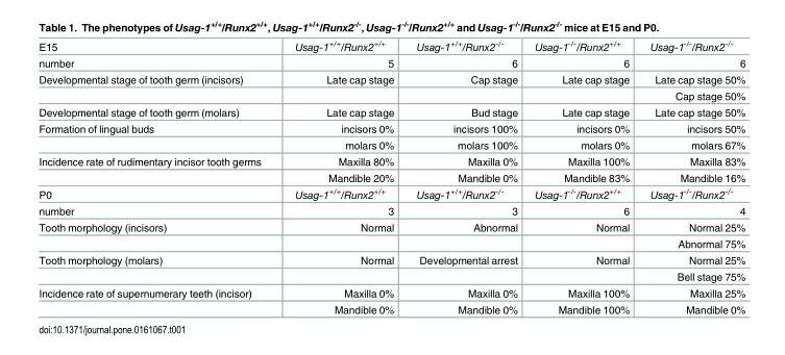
<table><tbody><tr><td>E15</td><td>Usag-1<sup>+/+</sup>/Runx2<sup>+/+</sup></td><td>Usag-1<sup>+/+</sup>/Runx2<sup>-/-</sup></td><td>Usag-1<sup>-/-</sup>/Runx2<sup>+/+</sup></td><td>Usag-1<sup>-/-</sup>/Runx2<sup>-/-</sup></td></tr><tr><td>number</td><td>5</td><td>6</td><td>6</td><td>6</td></tr><tr><td rowspan="2">Developmental stage of tooth germ (incisors)</td><td>Late cap stage</td><td>Cap stage</td><td>Late cap stage</td><td>Late cap stage 50%</td></tr><tr><td></td><td></td><td></td><td>Cap stage 50%</td></tr><tr><td>Developmental stage of tooth germ (molars)</td><td>Late cap stage</td><td>Bud stage</td><td>Late cap stage</td><td>Late cap stage 50%</td></tr><tr><td rowspan="2">Formation of lingual buds</td><td>incisors 0%</td><td>incisors 100%</td><td>incisors 0%</td><td>incisors 50%</td></tr><tr><td>molars 0%</td><td>molars 100%</td><td>molars 0%</td><td>molars 67%</td></tr><tr><td rowspan="2">Incidence rate of rudimentary incisor tooth germs</td><td>Maxilla 80%</td><td>Maxilla 0%</td><td>Maxilla 100%</td><td>Maxilla 83%</td></tr><tr><td>Mandible 20%</td><td>Mandible 0%</td><td>Mandible 83%</td><td>Mandible 16%</td></tr><tr><td>P0</td><td>Usag-1<sup>+/+</sup>/Runx2<sup>+/+</sup></td><td>Usag-1<sup>+/+</sup>/Runx2<sup>-/-</sup></td><td>Usag-1<sup>-/-</sup>/Runx2<sup>+/+</sup></td><td>Usag-1<sup>-/-</sup>/Runx2<sup>-/-</sup></td></tr><tr><td>number</td><td>3</td><td>3</td><td>6</td><td>4</td></tr><tr><td rowspan="2">Tooth morphology (incisors)</td><td>Normal</td><td>Abnormal</td><td>Normal</td><td>Normal 25%</td></tr><tr><td></td><td></td><td></td><td>Abnormal 75%</td></tr><tr><td rowspan="2">Tooth morphology (molars)</td><td>Normal</td><td>Developmental arrest</td><td>Normal</td><td>Normal 25%</td></tr><tr><td></td><td></td><td></td><td>Bell stage 75%</td></tr><tr><td rowspan="2">Incidence rate of supernumerary teeth (incisor)</td><td>Maxilla 0%</td><td>Maxilla 0%</td><td>Maxilla 100%</td><td>Maxilla 25%</td></tr><tr><td>Mandible 0%</td><td>Mandible 0%</td><td>Mandible 100%</td><td>Mandible 0%</td></tr></tbody></table>